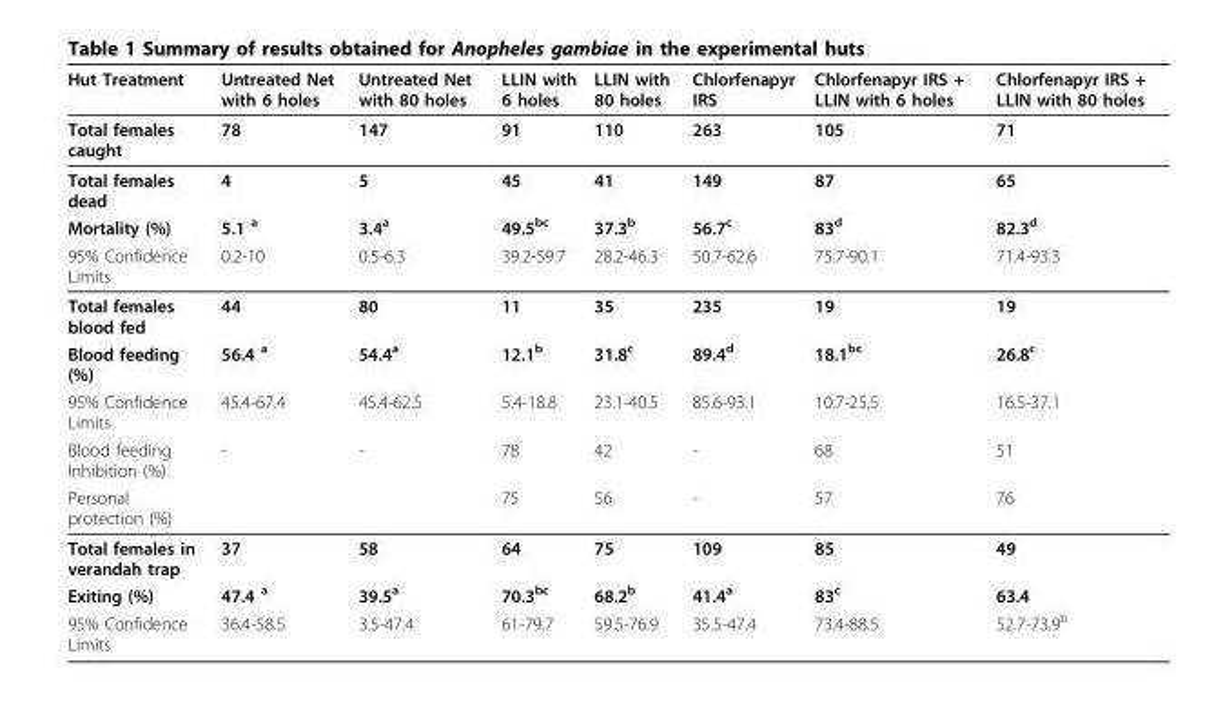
<table><thead><tr><td>Hut Treatment</td><td>Untreated Net with 6 holes</td><td>Untreated Net with 80 holes</td><td>LLIN with 6 holes</td><td>LLIN with 80 holes</td><td>Chlorfenapyr IRS</td><td>Chlorfenapyr IRS + LLIN with 6 holes</td><td>Chlorfenapyr IRS + LLIN with 80 holes</td></tr></thead><tbody><tr><td>Total females caught</td><td>78</td><td>147</td><td>91</td><td>110</td><td>263</td><td>105</td><td>71</td></tr><tr><td>Total females dead</td><td>4</td><td>5</td><td>45</td><td>41</td><td>149</td><td>87</td><td>65</td></tr><tr><td>Mortality (%)</td><td>5.1 <sup>a</sup></td><td>3.4<sup>a</sup></td><td>49.5<sup>bc</sup></td><td>37.3<sup>b</sup></td><td>56.7<sup>c</sup></td><td>83<sup>d</sup></td><td>82.3<sup>d</sup></td></tr><tr><td>95% Confidence Limits</td><td>0.2-10</td><td>0.5-6.3</td><td>39.2-59.7</td><td>28.2-46.3</td><td>50.7-62.6</td><td>75.7-90.1</td><td>71.4-93.3</td></tr><tr><td>Total females blood fed</td><td>44</td><td>80</td><td>11</td><td>35</td><td>235</td><td>19</td><td>19</td></tr><tr><td>Blood feeding (%)</td><td>56.4 <sup>a</sup></td><td>54.4<sup>a</sup></td><td>12.1<sup>b</sup></td><td>31.8<sup>c</sup></td><td>89.4<sup>d</sup></td><td>18.1<sup>bc</sup></td><td>26.8<sup>c</sup></td></tr><tr><td>95% Confidence Limits</td><td>45.4-67.4</td><td>45.4-62.5</td><td>5.4-18.8</td><td>23.1-40.5</td><td>85.6-93.1</td><td>10.7-25.5</td><td>16.5-37.1</td></tr><tr><td>Blood feeding Inhibition (%)</td><td>-</td><td>-</td><td>78</td><td>42</td><td>-</td><td>68</td><td>51</td></tr><tr><td>Personal protection (%)</td><td></td><td></td><td>75</td><td>56</td><td>-</td><td>57</td><td>76</td></tr><tr><td>Total females in verandah trap</td><td>37</td><td>58</td><td>64</td><td>75</td><td>109</td><td>85</td><td>49</td></tr><tr><td>Exiting (%)</td><td>47.4 <sup>a</sup></td><td>39.5<sup>a</sup></td><td>70.3<sup>bc</sup></td><td>68.2<sup>b</sup></td><td>41.4<sup>a</sup></td><td>83<sup>c</sup></td><td>63.4</td></tr><tr><td>95% Confidence Limits</td><td>36.4-58.5</td><td>3.5-47.4</td><td>61-79.7</td><td>59.5-76.9</td><td>35.5-47.4</td><td>73.4-88.5</td><td>52.7-73.9<sup>b</sup></td></tr></tbody></table>